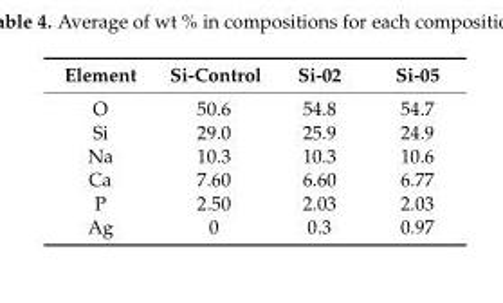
<table><thead><tr><td>Element</td><td>Si-Control</td><td>Si-02</td><td>Si-05</td></tr></thead><tbody><tr><td>O</td><td>50.6</td><td>54.8</td><td>54.7</td></tr><tr><td>Si</td><td>29.0</td><td>25.9</td><td>24.9</td></tr><tr><td>Na</td><td>10.3</td><td>10.3</td><td>10.6</td></tr><tr><td>Ca</td><td>7.60</td><td>6.60</td><td>6.77</td></tr><tr><td>P</td><td>2.50</td><td>2.03</td><td>2.03</td></tr><tr><td>Ag</td><td>0</td><td>0.3</td><td>0.97</td></tr></tbody></table>